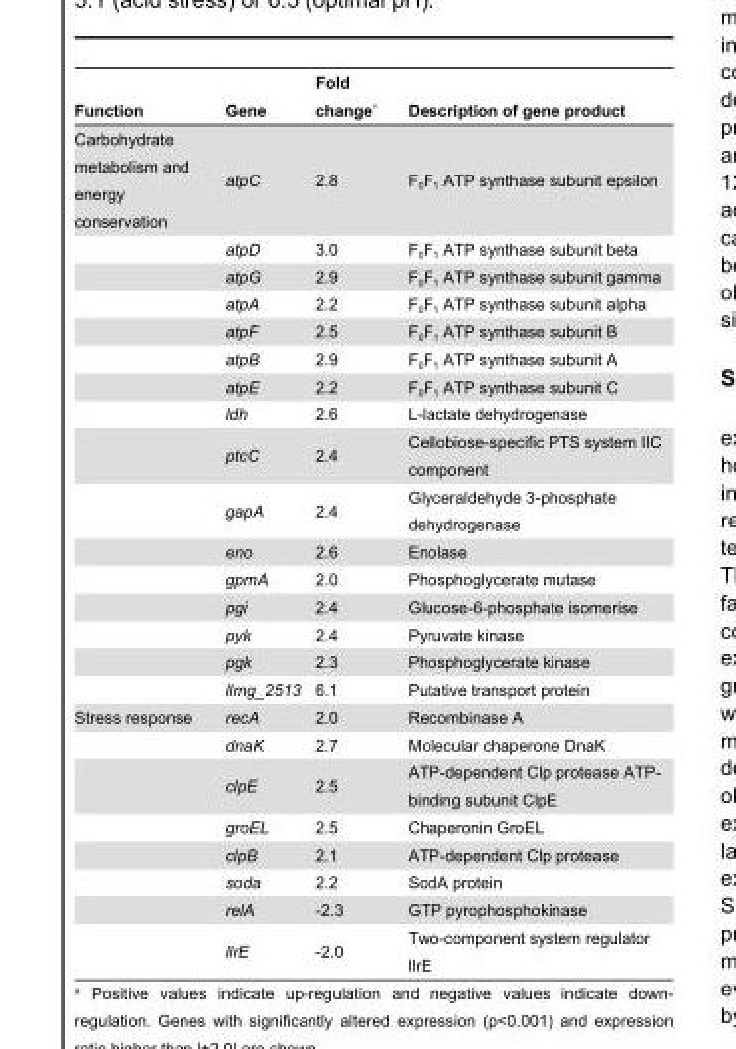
<table><thead><tr><td>Function</td><td>Gene</td><td>Fold change <sup>a</sup></td><td>Description of gene product</td></tr></thead><tbody><tr><td rowspan="16">Carbohydrate metabolism and energy conservation</td><td>atpC</td><td>2.8</td><td>F<sub>0</sub>F<sub>1</sub> ATP synthase subunit epsilon</td></tr><tr><td>atpD</td><td>3.0</td><td>F<sub>0</sub>F<sub>1</sub> ATP synthase subunit beta</td></tr><tr><td>atpG</td><td>2.9</td><td>F<sub>0</sub>F<sub>1</sub> ATP synthase subunit gamma</td></tr><tr><td>atpA</td><td>2.2</td><td>F<sub>0</sub>F<sub>1</sub> ATP synthase subunit alpha</td></tr><tr><td>atpF</td><td>2.5</td><td>F<sub>0</sub>F<sub>1</sub> ATP synthase subunit B</td></tr><tr><td>atpB</td><td>2.9</td><td>F<sub>0</sub>F<sub>1</sub> ATP synthase subunit A</td></tr><tr><td>atpE</td><td>2.2</td><td>F<sub>0</sub>F<sub>1</sub> ATP synthase subunit C</td></tr><tr><td>ldh</td><td>2.6</td><td>L-lactate dehydrogenase</td></tr><tr><td>ptcC</td><td>2.4</td><td>Cellobiose-specific PTS system IIC component</td></tr><tr><td>gapA</td><td>2.4</td><td>Glyceraldehyde 3-phosphate dehydrogenase</td></tr><tr><td>eno</td><td>2.6</td><td>Enolase</td></tr><tr><td>gpmA</td><td>2.0</td><td>Phosphoglycerate mutase</td></tr><tr><td>pgi</td><td>2.4</td><td>Glucose-6-phosphate isomerise</td></tr><tr><td>pyk</td><td>2.4</td><td>Pyruvate kinase</td></tr><tr><td>pgk</td><td>2.3</td><td>Phosphoglycerate kinase</td></tr><tr><td>llmg_2513</td><td>6.1</td><td>Putative transport protein</td></tr><tr><td rowspan="8">Stress response</td><td>recA</td><td>2.0</td><td>Recombinase A</td></tr><tr><td>dnaK</td><td>2.7</td><td>Molecular chaperone DnaK</td></tr><tr><td>clpE</td><td>2.5</td><td>ATP-dependent Clp protease ATP- binding subunit ClpE</td></tr><tr><td>groEL</td><td>2.5</td><td>Chaperonin GroEL</td></tr><tr><td>clpB</td><td>2.1</td><td>ATP-dependent Clp protease</td></tr><tr><td>soda</td><td>2.2</td><td>SodA protein</td></tr><tr><td>relA</td><td>-2.3</td><td>GTP pyrophosphokinase</td></tr><tr><td>llrE</td><td>-2.0</td><td>Two-component system regulator llrE</td></tr></tbody></table>